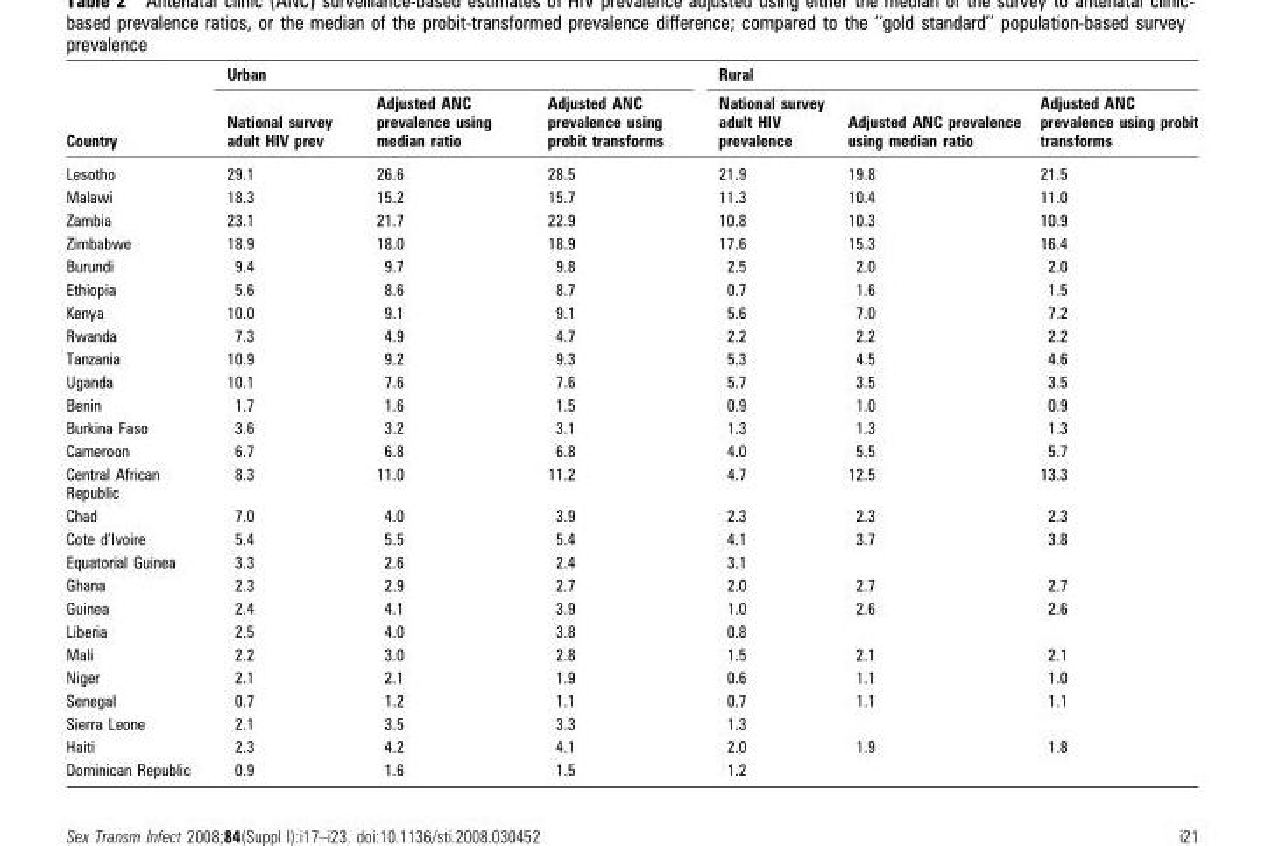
<table><thead><tr><td rowspan="2">Country</td><td colspan="3">Urban</td><td colspan="3">Rural</td></tr><tr><td>National survey adult HIV prev</td><td>Adjusted ANC prevalence using median ratio</td><td>Adjusted ANC prevalence using probit transforms</td><td>National survey adult HIV prevalence</td><td>Adjusted ANC prevalence using median ratio</td><td>Adjusted ANC prevalence using probit transforms</td></tr></thead><tbody><tr><td>Lesotho</td><td>29.1</td><td>26.6</td><td>28.5</td><td>21.9</td><td>19.8</td><td>21.5</td></tr><tr><td>Malawi</td><td>18.3</td><td>15.2</td><td>15.7</td><td>11.3</td><td>10.4</td><td>11.0</td></tr><tr><td>Zambia</td><td>23.1</td><td>21.7</td><td>22.9</td><td>10.8</td><td>10.3</td><td>10.9</td></tr><tr><td>Zimbabwe</td><td>18.9</td><td>18.0</td><td>18.9</td><td>17.6</td><td>15.3</td><td>16.4</td></tr><tr><td>Burundi</td><td>9.4</td><td>9.7</td><td>9.8</td><td>2.5</td><td>2.0</td><td>2.0</td></tr><tr><td>Ethiopia</td><td>5.6</td><td>8.6</td><td>8.7</td><td>0.7</td><td>1.6</td><td>1.5</td></tr><tr><td>Kenya</td><td>10.0</td><td>9.1</td><td>9.1</td><td>5.6</td><td>7.0</td><td>7.2</td></tr><tr><td>Rwanda</td><td>7.3</td><td>4.9</td><td>4.7</td><td>2.2</td><td>2.2</td><td>2.2</td></tr><tr><td>Tanzania</td><td>10.9</td><td>9.2</td><td>9.3</td><td>5.3</td><td>4.5</td><td>4.6</td></tr><tr><td>Uganda</td><td>10.1</td><td>7.6</td><td>7.6</td><td>5.7</td><td>3.5</td><td>3.5</td></tr><tr><td>Benin</td><td>1.7</td><td>1.6</td><td>1.5</td><td>0.9</td><td>1.0</td><td>0.9</td></tr><tr><td>Burkina Faso</td><td>3.6</td><td>3.2</td><td>3.1</td><td>1.3</td><td>1.3</td><td>1.3</td></tr><tr><td>Cameroon</td><td>6.7</td><td>6.8</td><td>6.8</td><td>4.0</td><td>5.5</td><td>5.7</td></tr><tr><td>Central African Republic</td><td>8.3</td><td>11.0</td><td>11.2</td><td>4.7</td><td>12.5</td><td>13.3</td></tr><tr><td>Chad</td><td>7.0</td><td>4.0</td><td>3.9</td><td>2.3</td><td>2.3</td><td>2.3</td></tr><tr><td>Cote d’Ivoire</td><td>5.4</td><td>5.5</td><td>5.4</td><td>4.1</td><td>3.7</td><td>3.8</td></tr><tr><td>Equatorial Guinea</td><td>3.3</td><td>2.6</td><td>2.4</td><td>3.1</td><td></td><td></td></tr><tr><td>Ghana</td><td>2.3</td><td>2.9</td><td>2.7</td><td>2.0</td><td>2.7</td><td>2.7</td></tr><tr><td>Guinea</td><td>2.4</td><td>4.1</td><td>3.9</td><td>1.0</td><td>2.6</td><td>2.6</td></tr><tr><td>Liberia</td><td>2.5</td><td>4.0</td><td>3.8</td><td>0.8</td><td></td><td></td></tr><tr><td>Mali</td><td>2.2</td><td>3.0</td><td>2.8</td><td>1.5</td><td>2.1</td><td>2.1</td></tr><tr><td>Niger</td><td>2.1</td><td>2.1</td><td>1.9</td><td>0.6</td><td>1.1</td><td>1.0</td></tr><tr><td>Senegal</td><td>0.7</td><td>1.2</td><td>1.1</td><td>0.7</td><td>1.1</td><td>1.1</td></tr><tr><td>Sierra Leone</td><td>2.1</td><td>3.5</td><td>3.3</td><td>1.3</td><td></td><td></td></tr><tr><td>Haiti</td><td>2.3</td><td>4.2</td><td>4.1</td><td>2.0</td><td>1.9</td><td>1.8</td></tr><tr><td>Dominican Republic</td><td>0.9</td><td>1.6</td><td>1.5</td><td>1.2</td><td></td><td></td></tr></tbody></table>